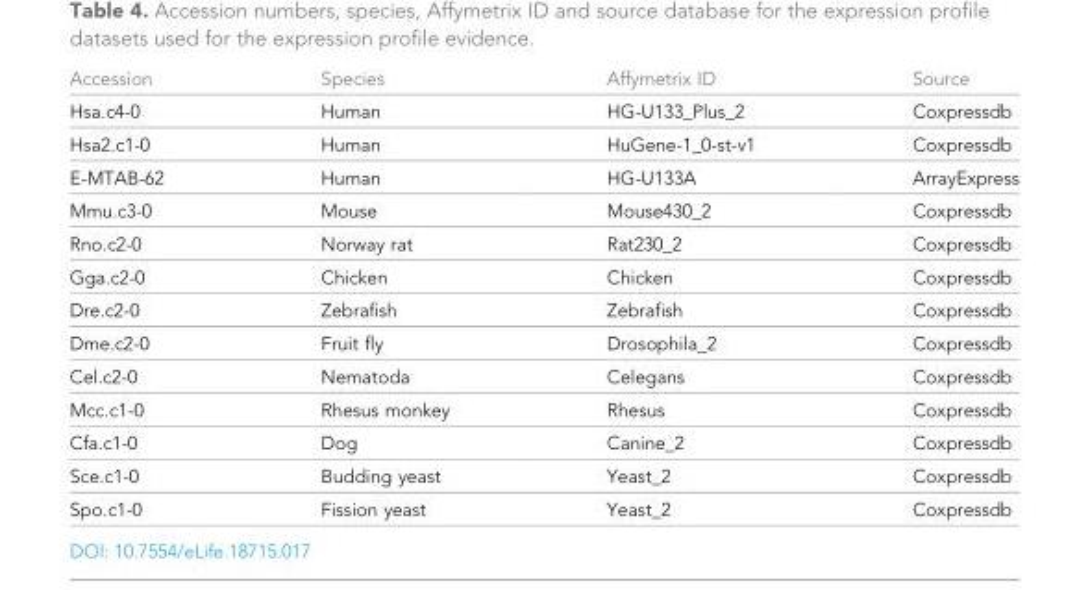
<table><thead><tr><td>Accession</td><td>Species</td><td>Affymetrix ID</td><td>Source</td></tr></thead><tbody><tr><td>Hsa.c4-0</td><td>Human</td><td>HG-U133_Plus_2</td><td>Coxpressdb</td></tr><tr><td>Hsa2.c1-0</td><td>Human</td><td>HuGene-1_0-st-v1</td><td>Coxpressdb</td></tr><tr><td>E-MTAB-62</td><td>Human</td><td>HG-U133A</td><td>ArrayExpress</td></tr><tr><td>Mmu.c3-0</td><td>Mouse</td><td>Mouse430_2</td><td>Coxpressdb</td></tr><tr><td>Rno.c2-0</td><td>Norway rat</td><td>Rat230_2</td><td>Coxpressdb</td></tr><tr><td>Gga.c2-0</td><td>Chicken</td><td>Chicken</td><td>Coxpressdb</td></tr><tr><td>Dre.c2-0</td><td>Zebrafish</td><td>Zebrafish</td><td>Coxpressdb</td></tr><tr><td>Dme.c2-0</td><td>Fruit fly</td><td>Drosophila_2</td><td>Coxpressdb</td></tr><tr><td>Cel.c2-0</td><td>Nematoda</td><td>Celegans</td><td>Coxpressdb</td></tr><tr><td>Mcc.c1-0</td><td>Rhesus monkey</td><td>Rhesus</td><td>Coxpressdb</td></tr><tr><td>Cfa.c1-0</td><td>Dog</td><td>Canine_2</td><td>Coxpressdb</td></tr><tr><td>Sce.c1-0</td><td>Budding yeast</td><td>Yeast_2</td><td>Coxpressdb</td></tr><tr><td>Spo.c1-0</td><td>Fission yeast</td><td>Yeast_2</td><td>Coxpressdb</td></tr></tbody></table>